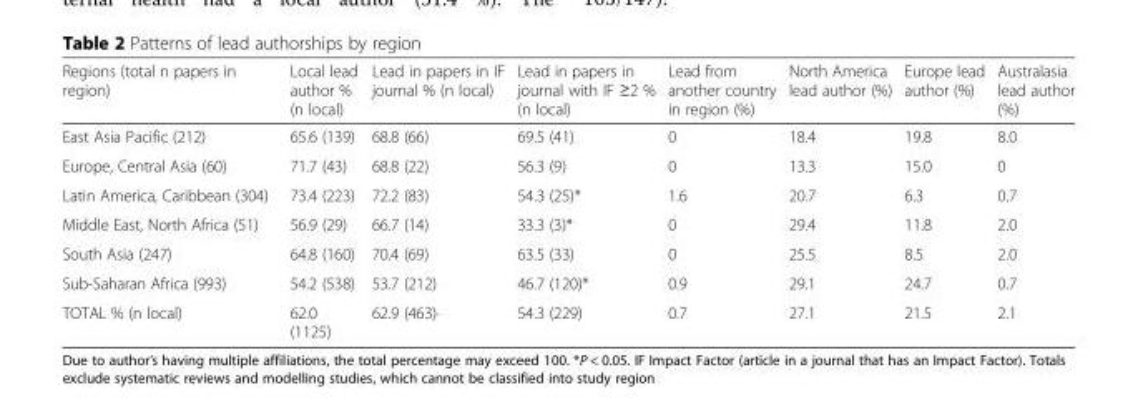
<table><thead><tr><td>Regions (total n papers in region)</td><td>Local lead author % (n local)</td><td>Lead in papers in IF journal % (n local)</td><td>Lead in papers in journal with IF ≥2 % (n local)</td><td>Lead from another country in region (%)</td><td>North America lead author (%)</td><td>Europe lead author (%)</td><td>Australasia lead author (%)</td></tr></thead><tbody><tr><td>East Asia Pacific (212)</td><td>65.6 (139)</td><td>68.8 (66)</td><td>69.5 (41)</td><td>0</td><td>18.4</td><td>19.8</td><td>8.0</td></tr><tr><td>Europe, Central Asia (60)</td><td>71.7 (43)</td><td>68.8 (22)</td><td>56.3 (9)</td><td>0</td><td>13.3</td><td>15.0</td><td>0</td></tr><tr><td>Latin America, Caribbean (304)</td><td>73.4 (223)</td><td>72.2 (83)</td><td>54.3 (25)*</td><td>1.6</td><td>20.7</td><td>6.3</td><td>0.7</td></tr><tr><td>Middle East, North Africa (51)</td><td>56.9 (29)</td><td>66.7 (14)</td><td>33.3 (3)*</td><td>0</td><td>29.4</td><td>11.8</td><td>2.0</td></tr><tr><td>South Asia (247)</td><td>64.8 (160)</td><td>70.4 (69)</td><td>63.5 (33)</td><td>0</td><td>25.5</td><td>8.5</td><td>2.0</td></tr><tr><td>Sub-Saharan Africa (993)</td><td>54.2 (538)</td><td>53.7 (212)</td><td>46.7 (120)*</td><td>0.9</td><td>29.1</td><td>24.7</td><td>0.7</td></tr><tr><td>TOTAL % (n local)</td><td>62.0 (1125)</td><td>62.9 (463)·</td><td>54.3 (229)</td><td>0.7</td><td>27.1</td><td>21.5</td><td>2.1</td></tr></tbody></table>